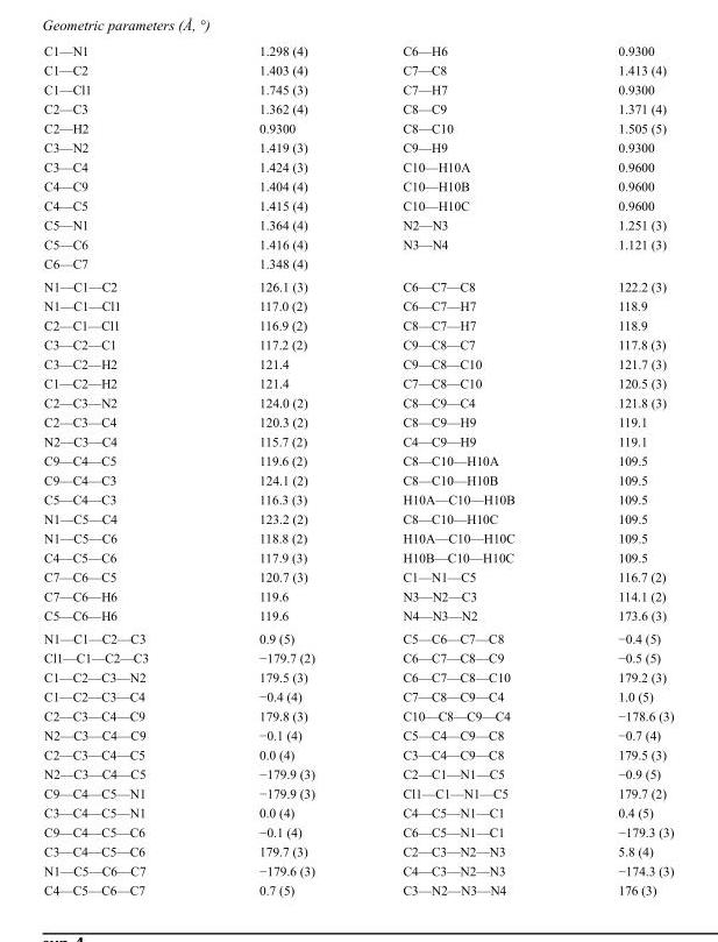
<table><tbody><tr><td>C1—N1</td><td>1.298 (4)</td><td>C6—H6</td><td>0.9300</td></tr><tr><td>C1—C2</td><td>1.403 (4)</td><td>C7—C8</td><td>1.413 (4)</td></tr><tr><td>C1—Cl1</td><td>1.745 (3)</td><td>C7—H7</td><td>0.9300</td></tr><tr><td>C2—C3</td><td>1.362 (4)</td><td>C8—C9</td><td>1.371 (4)</td></tr><tr><td>C2—H2</td><td>0.9300</td><td>C8—C10</td><td>1.505 (5)</td></tr><tr><td>C3—N2</td><td>1.419 (3)</td><td>C9—H9</td><td>0.9300</td></tr><tr><td>C3—C4</td><td>1.424 (3)</td><td>C10—H10A</td><td>0.9600</td></tr><tr><td>C4—C9</td><td>1.404 (4)</td><td>C10—H10B</td><td>0.9600</td></tr><tr><td>C4—C5</td><td>1.415 (4)</td><td>C10—H10C</td><td>0.9600</td></tr><tr><td>C5—N1</td><td>1.364 (4)</td><td>N2—N3</td><td>1.251 (3)</td></tr><tr><td>C5—C6</td><td>1.416 (4)</td><td>N3—N4</td><td>1.121 (3)</td></tr><tr><td>C6—C7</td><td>1.348 (4)</td><td></td><td></td></tr><tr><td>N1—C1—C2</td><td>126.1 (3)</td><td>C6—C7—C8</td><td>122.2 (3)</td></tr><tr><td>N1—C1—Cl1</td><td>117.0 (2)</td><td>C6—C7—H7</td><td>118.9</td></tr><tr><td>C2—C1—Cl1</td><td>116.9 (2)</td><td>C8—C7—H7</td><td>118.9</td></tr><tr><td>C3—C2—C1</td><td>117.2 (2)</td><td>C9—C8—C7</td><td>117.8 (3)</td></tr><tr><td>C3—C2—H2</td><td>121.4</td><td>C9—C8—C10</td><td>121.7 (3)</td></tr><tr><td>C1—C2—H2</td><td>121.4</td><td>C7—C8—C10</td><td>120.5 (3)</td></tr><tr><td>C2—C3—N2</td><td>124.0 (2)</td><td>C8—C9—C4</td><td>121.8 (3)</td></tr><tr><td>C2—C3—C4</td><td>120.3 (2)</td><td>C8—C9—H9</td><td>119.1</td></tr><tr><td>N2—C3—C4</td><td>115.7 (2)</td><td>C4—C9—H9</td><td>119.1</td></tr><tr><td>C9—C4—C5</td><td>119.6 (2)</td><td>C8—C10—H10A</td><td>109.5</td></tr><tr><td>C9—C4—C3</td><td>124.1 (2)</td><td>C8—C10—H10B</td><td>109.5</td></tr><tr><td>C5—C4—C3</td><td>116.3 (3)</td><td>H10A—C10—H10B</td><td>109.5</td></tr><tr><td>N1—C5—C4</td><td>123.2 (2)</td><td>C8—C10—H10C</td><td>109.5</td></tr><tr><td>N1—C5—C6</td><td>118.8 (2)</td><td>H10A—C10—H10C</td><td>109.5</td></tr><tr><td>C4—C5—C6</td><td>117.9 (3)</td><td>H10B—C10—H10C</td><td>109.5</td></tr><tr><td>C7—C6—C5</td><td>120.7 (3)</td><td>C1—N1—C5</td><td>116.7 (2)</td></tr><tr><td>C7—C6—H6</td><td>119.6</td><td>N3—N2—C3</td><td>114.1 (2)</td></tr><tr><td>C5—C6—H6</td><td>119.6</td><td>N4—N3—N2</td><td>173.6 (3)</td></tr><tr><td>N1—C1—C2—C3</td><td>0.9 (5)</td><td>C5—C6—C7—C8</td><td>−0.4 (5)</td></tr><tr><td>Cl1—C1—C2—C3</td><td>−179.7 (2)</td><td>C6—C7—C8—C9</td><td>−0.5 (5)</td></tr><tr><td>C1—C2—C3—N2</td><td>179.5 (3)</td><td>C6—C7—C8—C10</td><td>179.2 (3)</td></tr><tr><td>C1—C2—C3—C4</td><td>−0.4 (4)</td><td>C7—C8—C9—C4</td><td>1.0 (5)</td></tr><tr><td>C2—C3—C4—C9</td><td>179.8 (3)</td><td>C10—C8—C9—C4</td><td>−178.6 (3)</td></tr><tr><td>N2—C3—C4—C9</td><td>−0.1 (4)</td><td>C5—C4—C9—C8</td><td>−0.7 (4)</td></tr><tr><td>C2—C3—C4—C5</td><td>0.0 (4)</td><td>C3—C4—C9—C8</td><td>179.5 (3)</td></tr><tr><td>N2—C3—C4—C5</td><td>−179.9 (3)</td><td>C2—C1—N1—C5</td><td>−0.9 (5)</td></tr><tr><td>C9—C4—C5—N1</td><td>−179.9 (3)</td><td>Cl1—C1—N1—C5</td><td>179.7 (2)</td></tr><tr><td>C3—C4—C5—N1</td><td>0.0 (4)</td><td>C4—C5—N1—C1</td><td>0.4 (5)</td></tr><tr><td>C9—C4—C5—C6</td><td>−0.1 (4)</td><td>C6—C5—N1—C1</td><td>−179.3 (3)</td></tr><tr><td>C3—C4—C5—C6</td><td>179.7 (3)</td><td>C2—C3—N2—N3</td><td>5.8 (4)</td></tr><tr><td>N1—C5—C6—C7</td><td>−179.6 (3)</td><td>C4—C3—N2—N3</td><td>−174.3 (3)</td></tr><tr><td>C4—C5—C6—C7</td><td>0.7 (5)</td><td>C3—N2—N3—N4</td><td>176 (3)</td></tr></tbody></table>